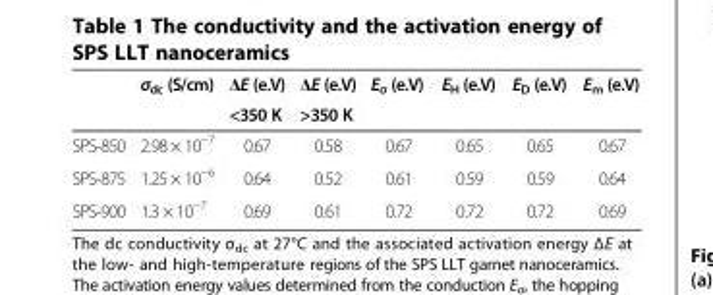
<table><thead><tr><td rowspan="2"></td><td rowspan="2">σ<sub>dc</sub> (S/cm)</td><td rowspan="2">ΔE (e.V) &lt;350 K</td><td rowspan="2">ΔE (e.V) &gt;350 K</td><td rowspan="2">E<sub>σ</sub> (e.V)</td><td rowspan="2">E<sub>H</sub> (e.V)</td><td rowspan="2">E<sub>D</sub> (e.V)</td><td rowspan="2">E<sub>m</sub> (e.V)</td></tr><tr></tr></thead><tbody><tr><td>SPS-850</td><td>2.98 × 10<sup>−7</sup></td><td>0.67</td><td>0.58</td><td>0.67</td><td>0.65</td><td>0.65</td><td>0.67</td></tr><tr><td>SPS-875</td><td>1.25 × 10<sup>−6</sup></td><td>0.64</td><td>0.52</td><td>0.61</td><td>0.59</td><td>0.59</td><td>0.64</td></tr><tr><td>SPS-900</td><td>1.3 × 10<sup>−7</sup></td><td>0.69</td><td>0.61</td><td>0.72</td><td>0.72</td><td>0.72</td><td>0.69</td></tr></tbody></table>